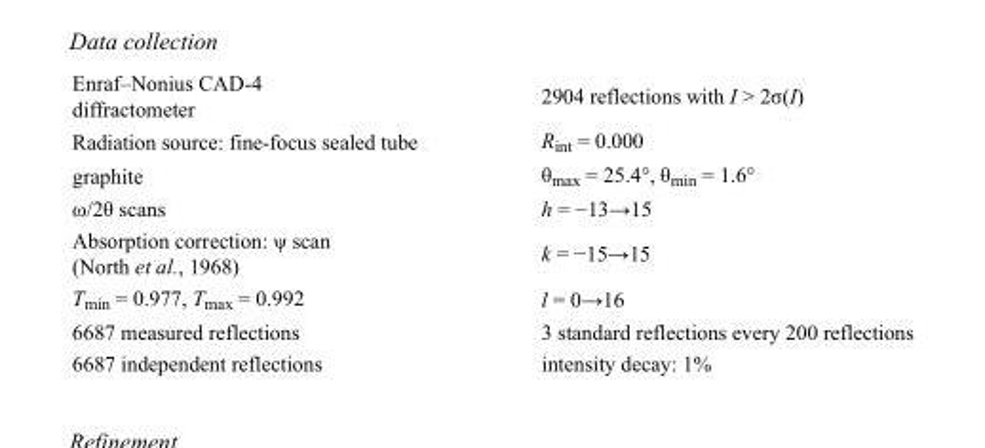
<table><tbody><tr><td>Enraf–Nonius CAD-4 diffractometer</td><td>2904 reflections with I &gt; 2σ(I)</td></tr><tr><td>Radiation source: fine-focus sealed tube</td><td>Rint = 0.000</td></tr><tr><td>graphite</td><td>θ<sub>max</sub> = 25.4°, θ<sub>min</sub> = 1.6°</td></tr><tr><td>ω/2θ scans</td><td>h = −13→15</td></tr><tr><td>Absorption correction: ψ scan (North et al., 1968)</td><td>k = −15→15</td></tr><tr><td>T<sub>min</sub> = 0.977, T<sub>max</sub> = 0.992</td><td>l = 0→16</td></tr><tr><td>6687 measured reflections</td><td>3 standard reflections every 200 reflections</td></tr><tr><td>6687 independent reflections</td><td>intensity decay: 1%</td></tr></tbody></table>